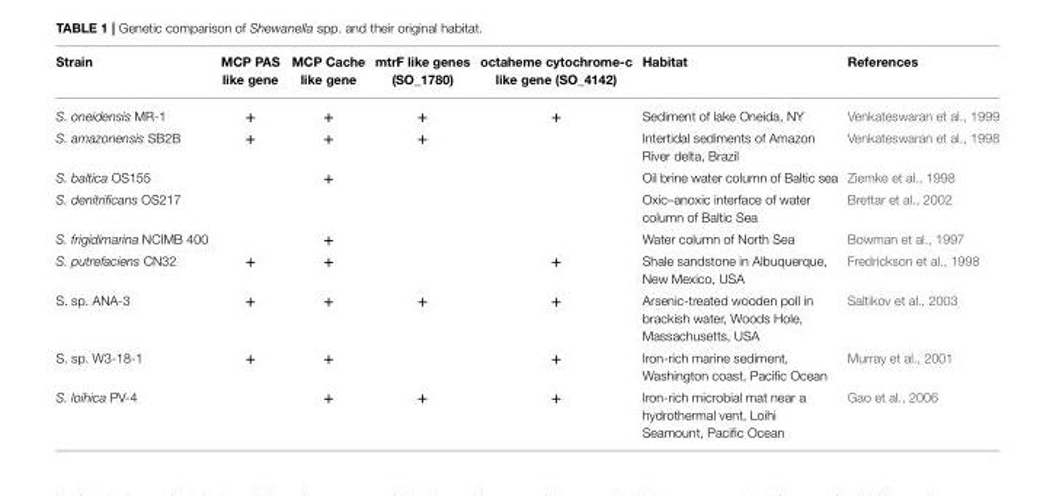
<table><thead><tr><td>Strain</td><td>MCP PAS like gene</td><td>MCP Cache like gene</td><td>mtrF like genes (SO_1780)</td><td>octaheme cytochrome-c like gene (SO_4142)</td><td>Habitat</td><td>References</td></tr></thead><tbody><tr><td>S. oneidensis MR-1</td><td>+</td><td>+</td><td>+</td><td>+</td><td>Sediment of lake Oneida, NY</td><td>Venkateswaran et al., 1999</td></tr><tr><td>S. amazonensis SB2B</td><td>+</td><td>+</td><td>+</td><td></td><td>Intertidal sediments of Amazon River delta, Brazil</td><td>Venkateswaran et al., 1998</td></tr><tr><td>S. baltica OS155</td><td></td><td>+</td><td></td><td></td><td>Oil brine water column of Baltic sea</td><td>Ziemke et al., 1998</td></tr><tr><td>S. denitrificans OS217</td><td></td><td></td><td></td><td></td><td>Oxic–anoxic interface of water column of Baltic Sea</td><td>Brettar et al., 2002</td></tr><tr><td>S. frigidimarina NCIMB 400</td><td></td><td>+</td><td></td><td></td><td>Water column of North Sea</td><td>Bowman et al., 1997</td></tr><tr><td>S. putrefaciens CN32</td><td>+</td><td>+</td><td></td><td>+</td><td>Shale sandstone in Albuquerque, New Mexico, USA</td><td>Fredrickson et al., 1998</td></tr><tr><td>S. sp. ANA-3</td><td>+</td><td>+</td><td>+</td><td>+</td><td>Arsenic-treated wooden poll in brackish water, Woods Hole, Massachusetts, USA</td><td>Saltikov et al., 2003</td></tr><tr><td>S. sp. W3-18-1</td><td>+</td><td>+</td><td></td><td>+</td><td>Iron-rich marine sediment, Washington coast, Pacific Ocean</td><td>Murray et al., 2001</td></tr><tr><td>S. loihica PV-4</td><td></td><td>+</td><td>+</td><td>+</td><td>Iron-rich microbial mat near a hydrothermal vent, Loihi Seamount, Pacific Ocean</td><td>Gao et al., 2006</td></tr></tbody></table>